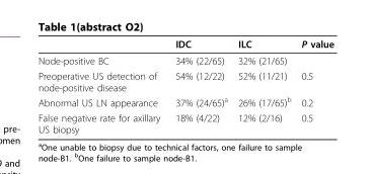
<table><thead><tr><td></td><td>IDC</td><td>ILC</td><td>P value</td></tr></thead><tbody><tr><td>Node-positive BC</td><td>34% (22/65)</td><td>32% (21/65)</td><td></td></tr><tr><td>Preoperative US detection of node-positive disease</td><td>54% (12/22)</td><td>52% (11/21)</td><td>0.5</td></tr><tr><td>Abnormal US LN appearance</td><td>37% (24/65)<sup>a</sup></td><td>26% (17/65)<sup>b</sup></td><td>0.2</td></tr><tr><td>False negative rate for axillary US biopsy</td><td>18% (4/22)</td><td>12% (2/16)</td><td>0.5</td></tr></tbody></table>